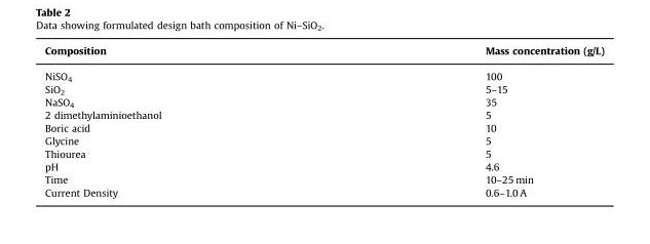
<table><thead><tr><td>Composition</td><td>Mass concentration (g/L)</td></tr></thead><tbody><tr><td>NiSO<sub>4</sub></td><td>100</td></tr><tr><td>SiO<sub>2</sub></td><td>5–15</td></tr><tr><td>NaSO<sub>4</sub></td><td>35</td></tr><tr><td>2 dimethylaminioethanol</td><td>5</td></tr><tr><td>Boric acid</td><td>10</td></tr><tr><td>Glycine</td><td>5</td></tr><tr><td>Thiourea</td><td>5</td></tr><tr><td>pH</td><td>4.6</td></tr><tr><td>Time</td><td>10–25 min</td></tr><tr><td>Current Density</td><td>0.6–1.0 A</td></tr></tbody></table>